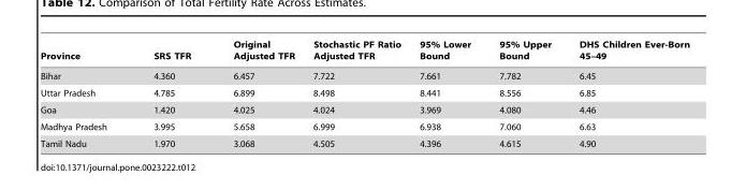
<table><thead><tr><td>Province</td><td>SRS TFR</td><td>Original Adjusted TFR</td><td>Stochastic PF Ratio Adjusted TFR</td><td>95% Lower Bound</td><td>95% Upper Bound</td><td>DHS Children Ever-Born 45–49</td></tr></thead><tbody><tr><td>Bihar</td><td>4.360</td><td>6.457</td><td>7.722</td><td>7.661</td><td>7.782</td><td>6.45</td></tr><tr><td>Uttar Pradesh</td><td>4.785</td><td>6.899</td><td>8.498</td><td>8.441</td><td>8.556</td><td>6.85</td></tr><tr><td>Goa</td><td>1.420</td><td>4.025</td><td>4.024</td><td>3.969</td><td>4.080</td><td>4.46</td></tr><tr><td>Madhya Pradesh</td><td>3.995</td><td>5.658</td><td>6.999</td><td>6.938</td><td>7.060</td><td>6.63</td></tr><tr><td>Tamil Nadu</td><td>1.970</td><td>3.068</td><td>4.505</td><td>4.396</td><td>4.615</td><td>4.90</td></tr></tbody></table>